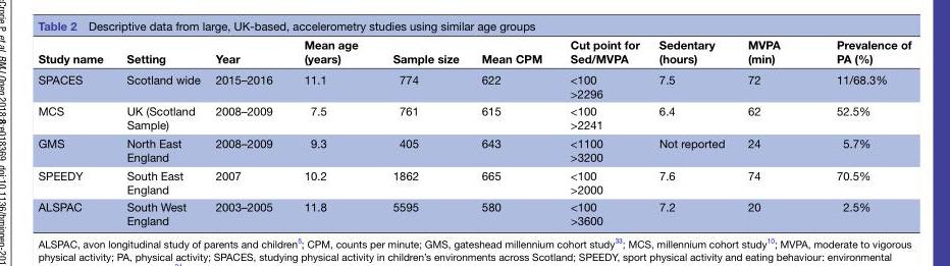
<table><thead><tr><td>Study name</td><td>Setting</td><td>Year</td><td>Mean age (years)</td><td>Sample size</td><td>Mean CPM</td><td>Cut point for Sed/MVPA</td><td>Sedentary (hours)</td><td>MVPA (min)</td><td>Prevalence of PA (%)</td></tr></thead><tbody><tr><td>SPACES</td><td>Scotland wide</td><td>2015–2016</td><td>11.1</td><td>774</td><td>622</td><td>&lt;100 &gt;2296</td><td>7.5</td><td>72</td><td>11/68.3%</td></tr><tr><td>MCS</td><td>UK (Scotland Sample)</td><td>2008–2009</td><td>7.5</td><td>761</td><td>615</td><td>&lt;100 &gt;2241</td><td>6.4</td><td>62</td><td>52.5%</td></tr><tr><td>GMS</td><td>North East England</td><td>2008–2009</td><td>9.3</td><td>405</td><td>643</td><td>&lt;1100 &gt;3200</td><td>Not reported</td><td>24</td><td>5.7%</td></tr><tr><td>SPEEDY</td><td>South East England</td><td>2007</td><td>10.2</td><td>1862</td><td>665</td><td>&lt;100 &gt;2000</td><td>7.6</td><td>74</td><td>70.5%</td></tr><tr><td>ALSPAC</td><td>South West England</td><td>2003–2005</td><td>11.8</td><td>5595</td><td>580</td><td>&lt;100 &gt;3600</td><td>7.2</td><td>20</td><td>2.5%</td></tr></tbody></table>